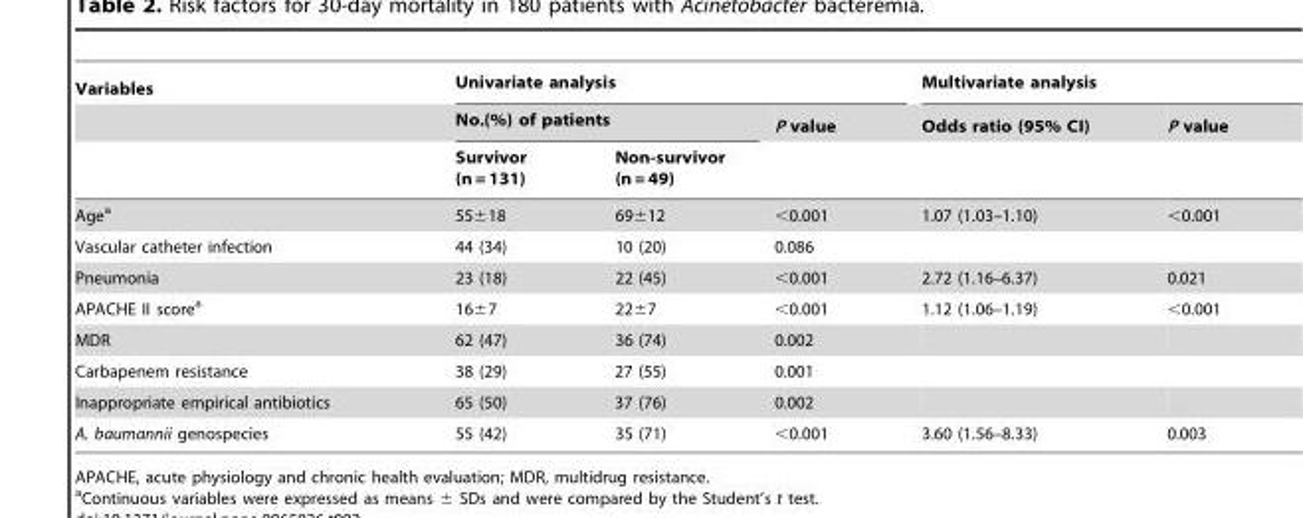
<table><thead><tr><td rowspan="3">Variables</td><td colspan="3">Univariate analysis</td><td colspan="2">Multivariate analysis</td></tr><tr><td colspan="2">No.(%) of patients</td><td rowspan="2">P value</td><td rowspan="2">Odds ratio (95% CI)</td><td rowspan="2">P value</td></tr><tr><td>Survivor (n = 131)</td><td>Non-survivor (n = 49)</td></tr></thead><tbody><tr><td>Age<sup>a</sup></td><td>55±18</td><td>69±12</td><td>&lt;0.001</td><td>1.07 (1.03–1.10)</td><td>&lt;0.001</td></tr><tr><td>Vascular catheter infection</td><td>44 (34)</td><td>10 (20)</td><td>0.086</td><td></td><td></td></tr><tr><td>Pneumonia</td><td>23 (18)</td><td>22 (45)</td><td>&lt;0.001</td><td>2.72 (1.16–6.37)</td><td>0.021</td></tr><tr><td>APACHE II score<sup>a</sup></td><td>16±7</td><td>22±7</td><td>&lt;0.001</td><td>1.12 (1.06–1.19)</td><td>&lt;0.001</td></tr><tr><td>MDR</td><td>62 (47)</td><td>36 (74)</td><td>0.002</td><td></td><td></td></tr><tr><td>Carbapenem resistance</td><td>38 (29)</td><td>27 (55)</td><td>0.001</td><td></td><td></td></tr><tr><td>Inappropriate empirical antibiotics</td><td>65 (50)</td><td>37 (76)</td><td>0.002</td><td></td><td></td></tr><tr><td>A. baumannii genospecies</td><td>55 (42)</td><td>35 (71)</td><td>&lt;0.001</td><td>3.60 (1.56–8.33)</td><td>0.003</td></tr></tbody></table>